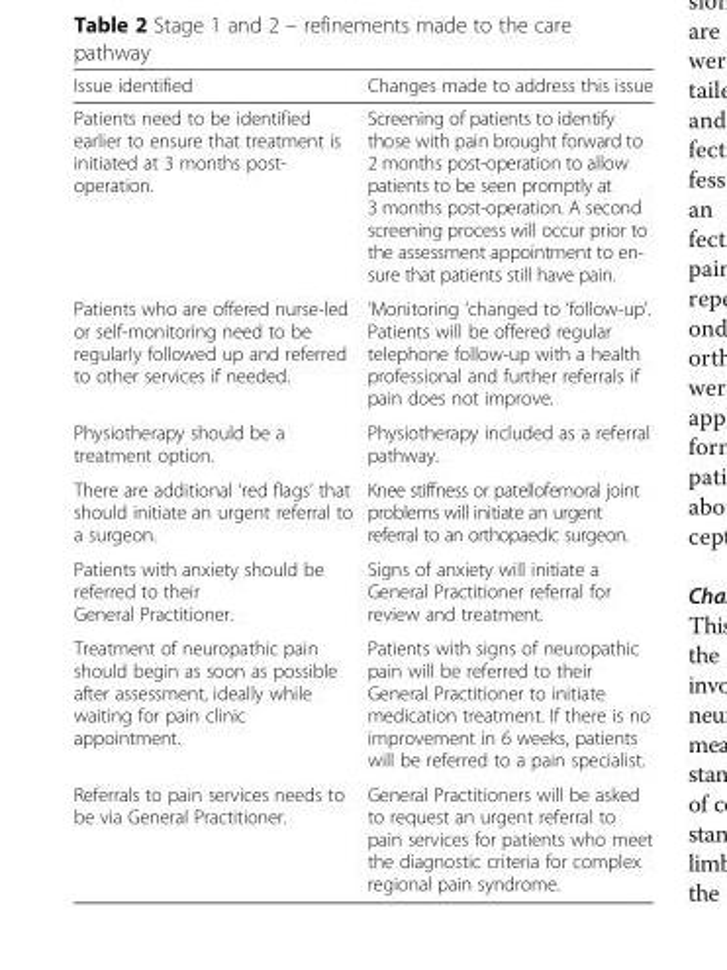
<table><thead><tr><td>Issue identified</td><td>Changes made to address this issue</td></tr></thead><tbody><tr><td>Patients need to be identified earlier to ensure that treatment is initiated at 3 months post- operation.</td><td>Screening of patients to identify those with pain brought forward to 2 months post-operation to allow patients to be seen promptly at 3 months post-operation. A second screening process will occur prior to the assessment appointment to en- sure that patients still have pain.</td></tr><tr><td>Patients who are offered nurse-led or self-monitoring need to be regularly followed up and referred to other services if needed.</td><td>‘Monitoring ‘changed to ‘follow-up’. Patients will be offered regular telephone follow-up with a health professional and further referrals if pain does not improve.</td></tr><tr><td>Physiotherapy should be a treatment option.</td><td>Physiotherapy included as a referral pathway.</td></tr><tr><td>There are additional ‘red flags’ that should initiate an urgent referral to a surgeon.</td><td>Knee stiffness or patellofemoral joint problems will initiate an urgent referral to an orthopaedic surgeon.</td></tr><tr><td>Patients with anxiety should be referred to their General Practitioner.</td><td>Signs of anxiety will initiate a General Practitioner referral for review and treatment.</td></tr><tr><td>Treatment of neuropathic pain should begin as soon as possible after assessment, ideally while waiting for pain clinic appointment.</td><td>Patients with signs of neuropathic pain will be referred to their General Practitioner to initiate medication treatment. If there is no improvement in 6 weeks, patients will be referred to a pain specialist.</td></tr><tr><td>Referrals to pain services needs to be via General Practitioner.</td><td>General Practitioners will be asked to request an urgent referral to pain services for patients who meet the diagnostic criteria for complex regional pain syndrome.</td></tr></tbody></table>